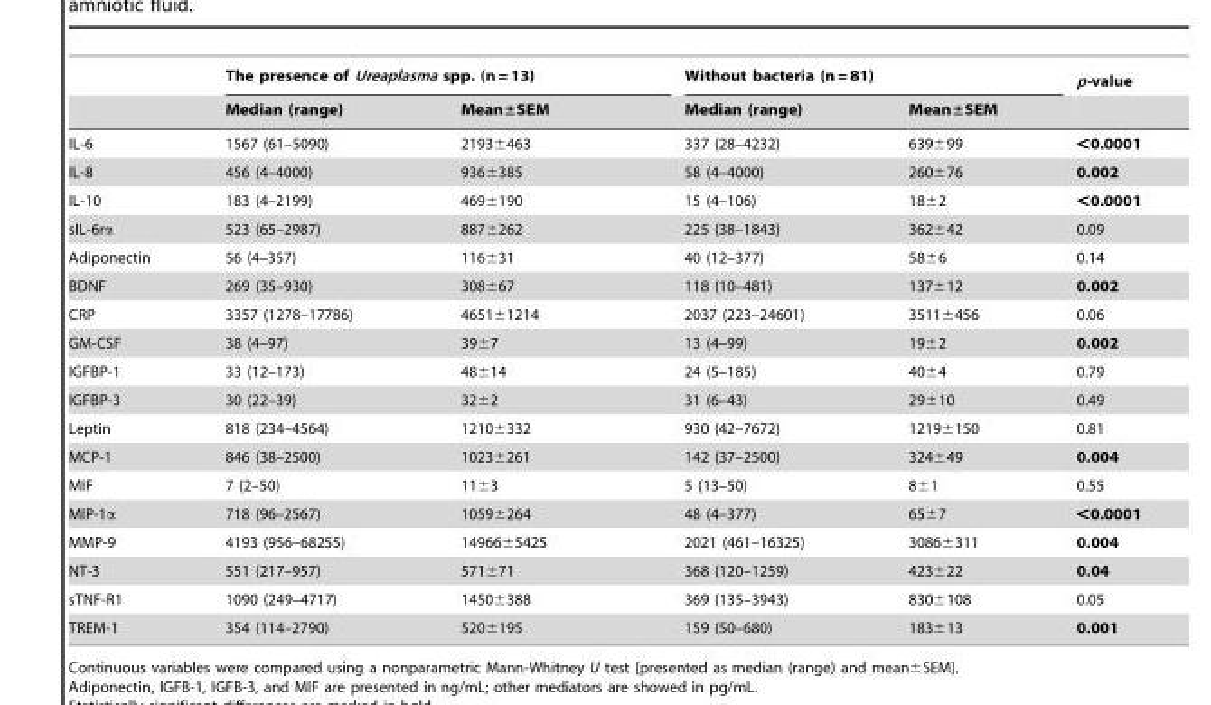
<table><thead><tr><td rowspan="2"></td><td colspan="2">The presence of Ureaplasma spp. (n = 13)</td><td colspan="2">Without bacteria (n = 81)</td><td rowspan="2">p-value</td></tr><tr><td>Median (range)</td><td>Mean±SEM</td><td>Median (range)</td><td>Mean±SEM</td></tr></thead><tbody><tr><td>IL-6</td><td>1567 (61–5090)</td><td>2193±463</td><td>337 (28–4232)</td><td>639±99</td><td>&lt;0.0001</td></tr><tr><td>IL-8</td><td>456 (4–4000)</td><td>936±385</td><td>58 (4–4000)</td><td>260±76</td><td>0.002</td></tr><tr><td>IL-10</td><td>183 (4–2199)</td><td>469±190</td><td>15 (4–106)</td><td>18±2</td><td>&lt;0.0001</td></tr><tr><td>sIL-6rα</td><td>523 (65–2987)</td><td>887±262</td><td>225 (38–1843)</td><td>362±42</td><td>0.09</td></tr><tr><td>Adiponectin</td><td>56 (4–357)</td><td>116±31</td><td>40 (12–377)</td><td>58±6</td><td>0.14</td></tr><tr><td>BDNF</td><td>269 (35–930)</td><td>308±67</td><td>118 (10–481)</td><td>137±12</td><td>0.002</td></tr><tr><td>CRP</td><td>3357 (1278–17786)</td><td>4651±1214</td><td>2037 (223–24601)</td><td>3511±456</td><td>0.06</td></tr><tr><td>GM-CSF</td><td>38 (4–97)</td><td>39±7</td><td>13 (4–99)</td><td>19±2</td><td>0.002</td></tr><tr><td>IGFBP-1</td><td>33 (12–173)</td><td>48±14</td><td>24 (5–185)</td><td>40±4</td><td>0.79</td></tr><tr><td>IGFBP-3</td><td>30 (22–39)</td><td>32±2</td><td>31 (6–43)</td><td>29±10</td><td>0.49</td></tr><tr><td>Leptin</td><td>818 (234–4564)</td><td>1210±332</td><td>930 (42–7672)</td><td>1219±150</td><td>0.81</td></tr><tr><td>MCP-1</td><td>846 (38–2500)</td><td>1023±261</td><td>142 (37–2500)</td><td>324±49</td><td>0.004</td></tr><tr><td>MIF</td><td>7 (2–50)</td><td>11±3</td><td>5 (13–50)</td><td>8±1</td><td>0.55</td></tr><tr><td>MIP-1α</td><td>718 (96–2567)</td><td>1059±264</td><td>48 (4–377)</td><td>65±7</td><td>&lt;0.0001</td></tr><tr><td>MMP-9</td><td>4193 (956–68255)</td><td>14966±5425</td><td>2021 (461–16325)</td><td>3086±311</td><td>0.004</td></tr><tr><td>NT-3</td><td>551 (217–957)</td><td>571±71</td><td>368 (120–1259)</td><td>423±22</td><td>0.04</td></tr><tr><td>sTNF-R1</td><td>1090 (249–4717)</td><td>1450±388</td><td>369 (135–3943)</td><td>830±108</td><td>0.05</td></tr><tr><td>TREM-1</td><td>354 (114–2790)</td><td>520±195</td><td>159 (50–680)</td><td>183±13</td><td>0.001</td></tr></tbody></table>